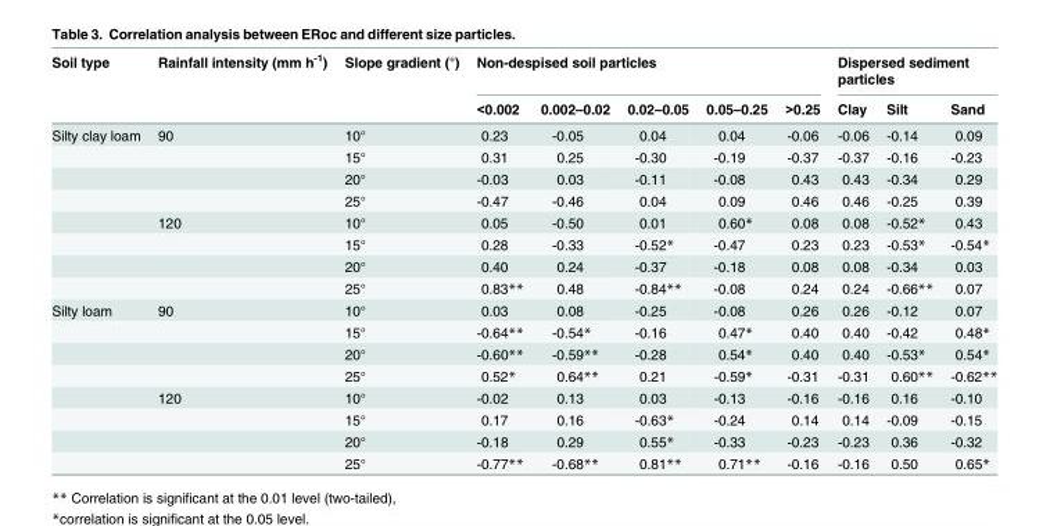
<table><thead><tr><td rowspan="2">Soil type</td><td rowspan="2">Rainfall intensity (mm h<sup>-1</sup>)</td><td rowspan="2">Slope gradient (°)</td><td colspan="5">Non-despised soil particles</td><td colspan="3">Dispersed sediment particles</td></tr><tr><td>&lt;0.002</td><td>0.002–0.02</td><td>0.02–0.05</td><td>0.05–0.25</td><td>&gt;0.25</td><td>Clay</td><td>Silt</td><td>Sand</td></tr></thead><tbody><tr><td rowspan="8">Silty clay loam</td><td>90</td><td>10°</td><td>0.23</td><td>-0.05</td><td>0.04</td><td>0.04</td><td>-0.06</td><td>-0.06</td><td>-0.14</td><td>0.09</td></tr><tr><td></td><td>15°</td><td>0.31</td><td>0.25</td><td>-0.30</td><td>-0.19</td><td>-0.37</td><td>-0.37</td><td>-0.16</td><td>-0.23</td></tr><tr><td></td><td>20°</td><td>-0.03</td><td>0.03</td><td>-0.11</td><td>-0.08</td><td>0.43</td><td>0.43</td><td>-0.34</td><td>0.29</td></tr><tr><td></td><td>25°</td><td>-0.47</td><td>-0.46</td><td>0.04</td><td>0.09</td><td>0.46</td><td>0.46</td><td>-0.25</td><td>0.39</td></tr><tr><td>120</td><td>10°</td><td>0.05</td><td>-0.50</td><td>0.01</td><td>0.60*</td><td>0.08</td><td>0.08</td><td>-0.52*</td><td>0.43</td></tr><tr><td></td><td>15°</td><td>0.28</td><td>-0.33</td><td>-0.52*</td><td>-0.47</td><td>0.23</td><td>0.23</td><td>-0.53*</td><td>-0.54*</td></tr><tr><td></td><td>20°</td><td>0.40</td><td>0.24</td><td>-0.37</td><td>-0.18</td><td>0.08</td><td>0.08</td><td>-0.34</td><td>0.03</td></tr><tr><td></td><td>25°</td><td>0.83**</td><td>0.48</td><td>-0.84**</td><td>-0.08</td><td>0.24</td><td>0.24</td><td>-0.66**</td><td>0.07</td></tr><tr><td rowspan="8">Silty loam</td><td>90</td><td>10°</td><td>0.03</td><td>0.08</td><td>-0.25</td><td>-0.08</td><td>0.26</td><td>0.26</td><td>-0.12</td><td>0.07</td></tr><tr><td></td><td>15°</td><td>-0.64**</td><td>-0.54*</td><td>-0.16</td><td>0.47*</td><td>0.40</td><td>0.40</td><td>-0.42</td><td>0.48*</td></tr><tr><td></td><td>20°</td><td>-0.60**</td><td>-0.59**</td><td>-0.28</td><td>0.54*</td><td>0.40</td><td>0.40</td><td>-0.53*</td><td>0.54*</td></tr><tr><td></td><td>25°</td><td>0.52*</td><td>0.64**</td><td>0.21</td><td>-0.59*</td><td>-0.31</td><td>-0.31</td><td>0.60**</td><td>-0.62**</td></tr><tr><td>120</td><td>10°</td><td>-0.02</td><td>0.13</td><td>0.03</td><td>-0.13</td><td>-0.16</td><td>-0.16</td><td>0.16</td><td>-0.10</td></tr><tr><td></td><td>15°</td><td>0.17</td><td>0.16</td><td>-0.63*</td><td>-0.24</td><td>0.14</td><td>0.14</td><td>-0.09</td><td>-0.15</td></tr><tr><td></td><td>20°</td><td>-0.18</td><td>0.29</td><td>0.55*</td><td>-0.33</td><td>-0.23</td><td>-0.23</td><td>0.36</td><td>-0.32</td></tr><tr><td></td><td>25°</td><td>-0.77**</td><td>-0.68**</td><td>0.81**</td><td>0.71**</td><td>-0.16</td><td>-0.16</td><td>0.50</td><td>0.65*</td></tr></tbody></table>